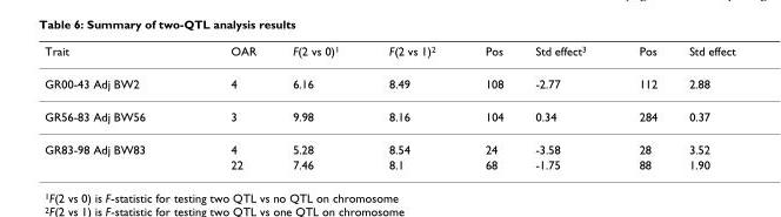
<table><thead><tr><td>Trait</td><td>OAR</td><td>F(2 vs 0)<sup>1</sup></td><td>F(2 vs 1)<sup>2</sup></td><td>Pos</td><td>Std effect<sup>3</sup></td><td>Pos</td><td>Std effect</td></tr></thead><tbody><tr><td>GR00-43 Adj BW2</td><td>4</td><td>6.16</td><td>8.49</td><td>108</td><td>-2.77</td><td>112</td><td>2.88</td></tr><tr><td>GR56-83 Adj BW56</td><td>3</td><td>9.98</td><td>8.16</td><td>104</td><td>0.34</td><td>284</td><td>0.37</td></tr><tr><td rowspan="2">GR83-98 Adj BW83</td><td>4</td><td>5.28</td><td>8.54</td><td>24</td><td>-3.58</td><td>28</td><td>3.52</td></tr><tr><td>22</td><td>7.46</td><td>8.1</td><td>68</td><td>-1.75</td><td>88</td><td>1.90</td></tr></tbody></table>